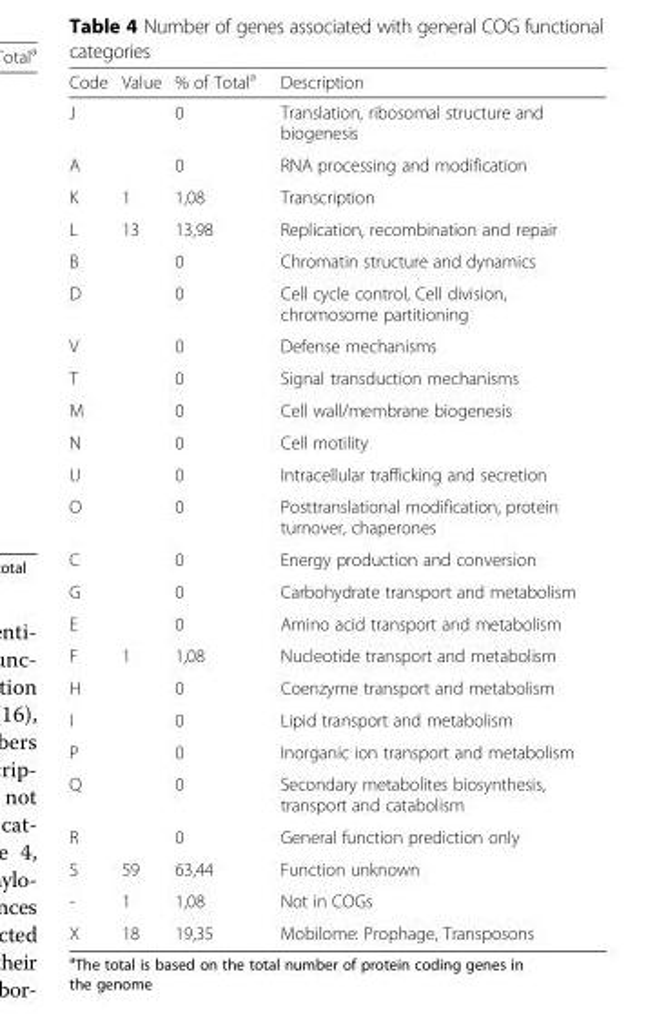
<table><thead><tr><td>Code</td><td>Value</td><td>% of Total<sup>a</sup></td><td>Description</td></tr></thead><tbody><tr><td>J</td><td></td><td>0</td><td>Translation, ribosomal structure and biogenesis</td></tr><tr><td>A</td><td></td><td>0</td><td>RNA processing and modification</td></tr><tr><td>K</td><td>1</td><td>1,08</td><td>Transcription</td></tr><tr><td>L</td><td>13</td><td>13,98</td><td>Replication, recombination and repair</td></tr><tr><td>B</td><td></td><td>0</td><td>Chromatin structure and dynamics</td></tr><tr><td>D</td><td></td><td>0</td><td>Cell cycle control, Cell division, chromosome partitioning</td></tr><tr><td>V</td><td></td><td>0</td><td>Defense mechanisms</td></tr><tr><td>T</td><td></td><td>0</td><td>Signal transduction mechanisms</td></tr><tr><td>M</td><td></td><td>0</td><td>Cell wall/membrane biogenesis</td></tr><tr><td>N</td><td></td><td>0</td><td>Cell motility</td></tr><tr><td>U</td><td></td><td>0</td><td>Intracellular trafficking and secretion</td></tr><tr><td>O</td><td></td><td>0</td><td>Posttranslational modification, protein turnover, chaperones</td></tr><tr><td>C</td><td></td><td>0</td><td>Energy production and conversion</td></tr><tr><td>G</td><td></td><td>0</td><td>Carbohydrate transport and metabolism</td></tr><tr><td>E</td><td></td><td>0</td><td>Amino acid transport and metabolism</td></tr><tr><td>F</td><td>1</td><td>1,08</td><td>Nucleotide transport and metabolism</td></tr><tr><td>H</td><td></td><td>0</td><td>Coenzyme transport and metabolism</td></tr><tr><td>I</td><td></td><td>0</td><td>Lipid transport and metabolism</td></tr><tr><td>P</td><td></td><td>0</td><td>Inorganic ion transport and metabolism</td></tr><tr><td>Q</td><td></td><td>0</td><td>Secondary metabolites biosynthesis, transport and catabolism</td></tr><tr><td>R</td><td></td><td>0</td><td>General function prediction only</td></tr><tr><td>S</td><td>59</td><td>63,44</td><td>Function unknown</td></tr><tr><td>-</td><td>1</td><td>1,08</td><td>Not in COGs</td></tr><tr><td>X</td><td>18</td><td>19,35</td><td>Mobilome: Prophage, Transposons</td></tr></tbody></table>